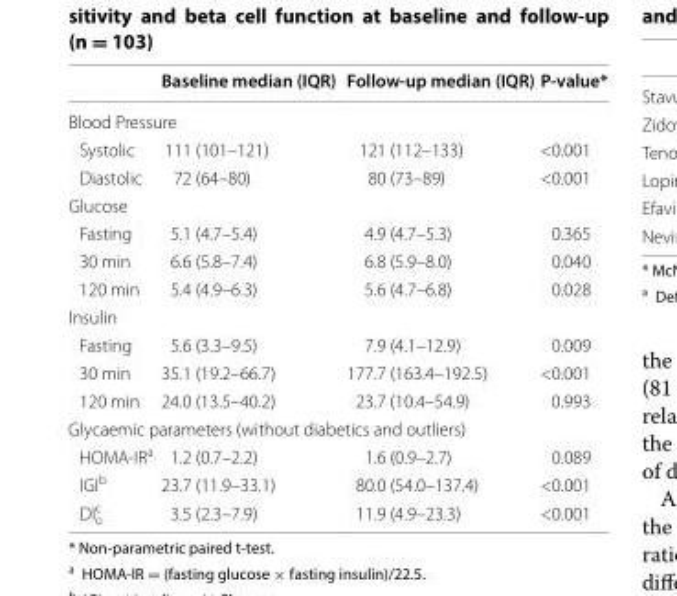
<table><thead><tr><td></td><td>Baseline median (IQR)</td><td>Follow-up median (IQR)</td><td>P-value*</td></tr></thead><tbody><tr><td colspan="4">Blood Pressure</td></tr><tr><td>Systolic</td><td>111 (101–121)</td><td>121 (112–133)</td><td>&lt;0.001</td></tr><tr><td>Diastolic</td><td>72 (64–80)</td><td>80 (73–89)</td><td>&lt;0.001</td></tr><tr><td colspan="4">Glucose</td></tr><tr><td>Fasting</td><td>5.1 (4.7–5.4)</td><td>4.9 (4.7–5.3)</td><td>0.365</td></tr><tr><td>30 min</td><td>6.6 (5.8–7.4)</td><td>6.8 (5.9–8.0)</td><td>0.040</td></tr><tr><td>120 min</td><td>5.4 (4.9–6.3)</td><td>5.6 (4.7–6.8)</td><td>0.028</td></tr><tr><td colspan="4">Insulin</td></tr><tr><td>Fasting</td><td>5.6 (3.3–9.5)</td><td>7.9 (4.1–12.9)</td><td>0.009</td></tr><tr><td>30 min</td><td>35.1 (19.2–66.7)</td><td>177.7 (163.4–192.5)</td><td>&lt;0.001</td></tr><tr><td>120 min</td><td>24.0 (13.5–40.2)</td><td>23.7 (10.4–54.9)</td><td>0.993</td></tr><tr><td colspan="4">Glycaemic parameters (without diabetics and outliers)</td></tr><tr><td>HOMA-IR<sup>a</sup></td><td>1.2 (0.7–2.2)</td><td>1.6 (0.9–2.7)</td><td>0.089</td></tr><tr><td>IGI<sup>b</sup></td><td>23.7 (11.9–33.1)</td><td>80.0 (54.0–137.4)</td><td>&lt;0.001</td></tr><tr><td>DI<sub>o</sub> <sup>c</sup></td><td>3.5 (2.3–7.9)</td><td>11.9 (4.9–23.3)</td><td>&lt;0.001</td></tr></tbody></table>